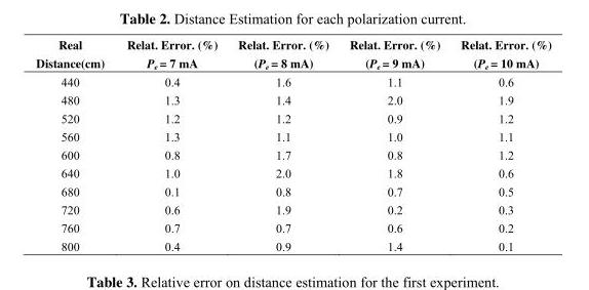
<table><thead><tr><td>Real Distance(cm)</td><td>Relat. Error. (%) Pe = 7 mA</td><td>Relat. Error. (%) (Pe = 8 mA)</td><td>Relat. Error. (%) (Pe = 9 mA)</td><td>Relat. Error. (%) (Pe = 10 mA)</td></tr></thead><tbody><tr><td>440</td><td>0.4</td><td>1.6</td><td>1.1</td><td>0.6</td></tr><tr><td>480</td><td>1.3</td><td>1.4</td><td>2.0</td><td>1.9</td></tr><tr><td>520</td><td>1.2</td><td>1.2</td><td>0.9</td><td>1.2</td></tr><tr><td>560</td><td>1.3</td><td>1.1</td><td>1.0</td><td>1.1</td></tr><tr><td>600</td><td>0.8</td><td>1.7</td><td>0.8</td><td>1.2</td></tr><tr><td>640</td><td>1.0</td><td>2.0</td><td>1.8</td><td>0.6</td></tr><tr><td>680</td><td>0.1</td><td>0.8</td><td>0.7</td><td>0.5</td></tr><tr><td>720</td><td>0.6</td><td>1.9</td><td>0.2</td><td>0.3</td></tr><tr><td>760</td><td>0.7</td><td>0.7</td><td>0.6</td><td>0.2</td></tr><tr><td>800</td><td>0.4</td><td>0.9</td><td>1.4</td><td>0.1</td></tr></tbody></table>